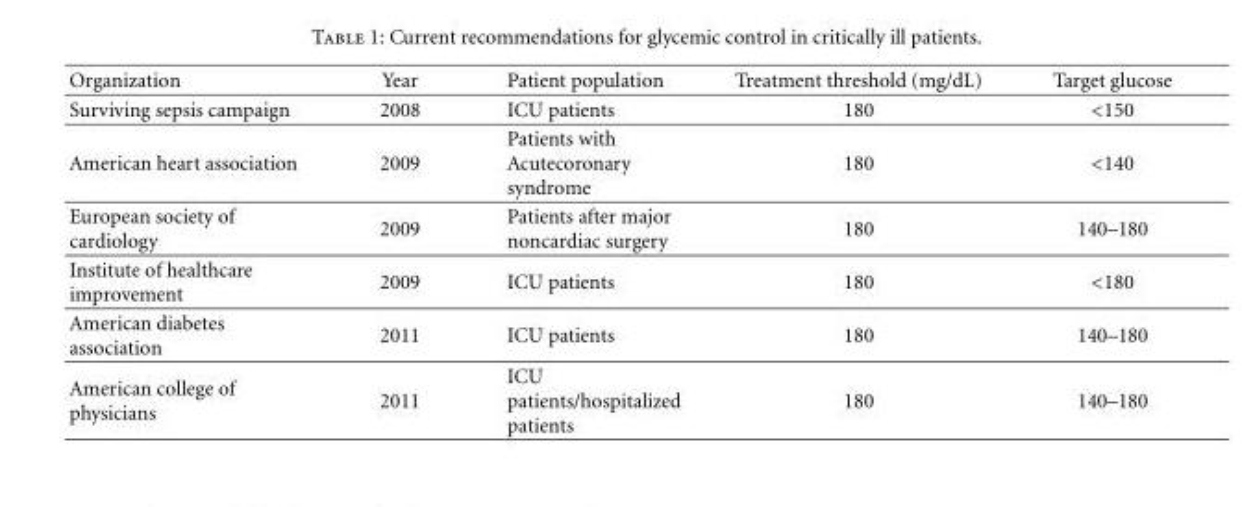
<table><thead><tr><td>Organization</td><td>Year</td><td>Patient population</td><td>Treatment threshold (mg/dL)</td><td>Target glucose</td></tr></thead><tbody><tr><td>Surviving sepsis campaign</td><td>2008</td><td>ICU patients</td><td>180</td><td>&lt;150</td></tr><tr><td>American heart association</td><td>2009</td><td>Patients with Acutecoronary syndrome</td><td>180</td><td>&lt;140</td></tr><tr><td>European society of cardiology</td><td>2009</td><td>Patients after major noncardiac surgery</td><td>180</td><td>140–180</td></tr><tr><td>Institute of healthcare improvement</td><td>2009</td><td>ICU patients</td><td>180</td><td>&lt;180</td></tr><tr><td>American diabetes association</td><td>2011</td><td>ICU patients</td><td>180</td><td>140–180</td></tr><tr><td>American college of physicians</td><td>2011</td><td>ICU patients/hospitalized patients</td><td>180</td><td>140–180</td></tr></tbody></table>